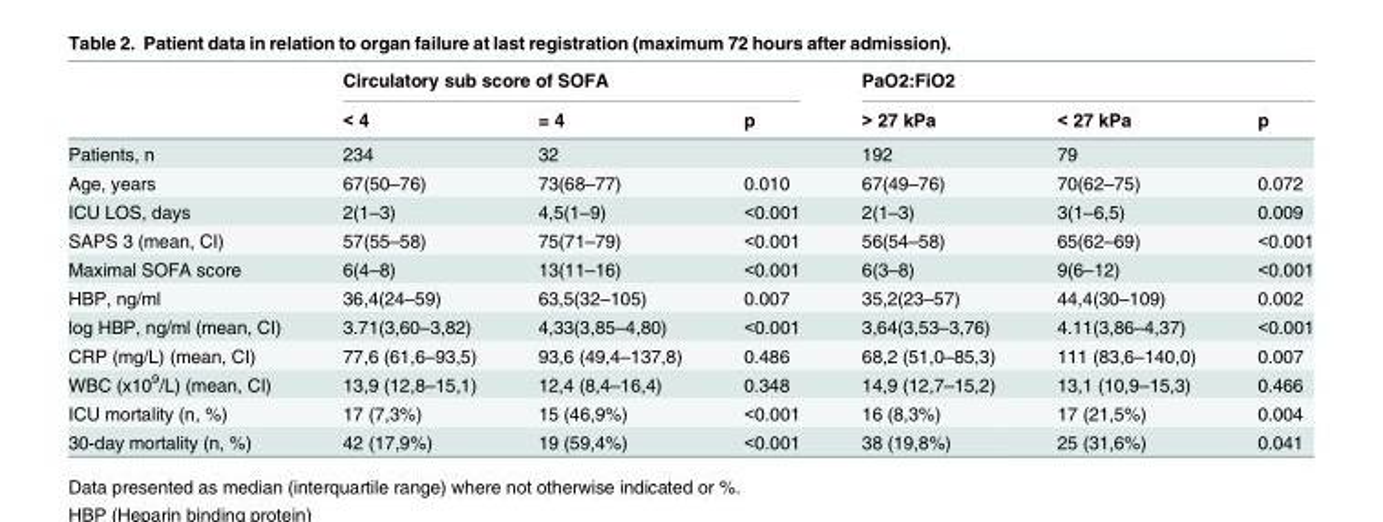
<table><thead><tr><td rowspan="2"></td><td colspan="3">Circulatory sub score of SOFA</td><td colspan="3">PaO2:FiO2</td></tr><tr><td>&lt; 4</td><td>= 4</td><td>p</td><td>&gt; 27 kPa</td><td>&lt; 27 kPa</td><td>p</td></tr></thead><tbody><tr><td>Patients, n</td><td>234</td><td>32</td><td></td><td>192</td><td>79</td><td></td></tr><tr><td>Age, years</td><td>67(50–76)</td><td>73(68–77)</td><td>0.010</td><td>67(49–76)</td><td>70(62–75)</td><td>0.072</td></tr><tr><td>ICU LOS, days</td><td>2(1–3)</td><td>4,5(1–9)</td><td>&lt;0.001</td><td>2(1–3)</td><td>3(1–6,5)</td><td>0.009</td></tr><tr><td>SAPS 3 (mean, CI)</td><td>57(55–58)</td><td>75(71–79)</td><td>&lt;0.001</td><td>56(54–58)</td><td>65(62–69)</td><td>&lt;0.001</td></tr><tr><td>Maximal SOFA score</td><td>6(4–8)</td><td>13(11–16)</td><td>&lt;0.001</td><td>6(3–8)</td><td>9(6–12)</td><td>&lt;0.001</td></tr><tr><td>HBP, ng/ml</td><td>36,4(24–59)</td><td>63,5(32–105)</td><td>0.007</td><td>35,2(23–57)</td><td>44,4(30–109)</td><td>0.002</td></tr><tr><td>log HBP, ng/ml (mean, CI)</td><td>3.71(3,60–3,82)</td><td>4,33(3,85–4,80)</td><td>&lt;0.001</td><td>3,64(3,53–3,76)</td><td>4.11(3,86–4,37)</td><td>&lt;0.001</td></tr><tr><td>CRP (mg/L) (mean, CI)</td><td>77,6 (61,6–93,5)</td><td>93,6 (49,4–137,8)</td><td>0.486</td><td>68,2 (51,0–85,3)</td><td>111 (83,6–140,0)</td><td>0.007</td></tr><tr><td>WBC (x10<sup>9</sup>/L) (mean, CI)</td><td>13,9 (12,8–15,1)</td><td>12,4 (8,4–16,4)</td><td>0.348</td><td>14,9 (12,7–15,2)</td><td>13,1 (10,9–15,3)</td><td>0.466</td></tr><tr><td>ICU mortality (n, %)</td><td>17 (7,3%)</td><td>15 (46,9%)</td><td>&lt;0.001</td><td>16 (8,3%)</td><td>17 (21,5%)</td><td>0.004</td></tr><tr><td>30-day mortality (n, %)</td><td>42 (17,9%)</td><td>19 (59,4%)</td><td>&lt;0.001</td><td>38 (19,8%)</td><td>25 (31,6%)</td><td>0.041</td></tr></tbody></table>